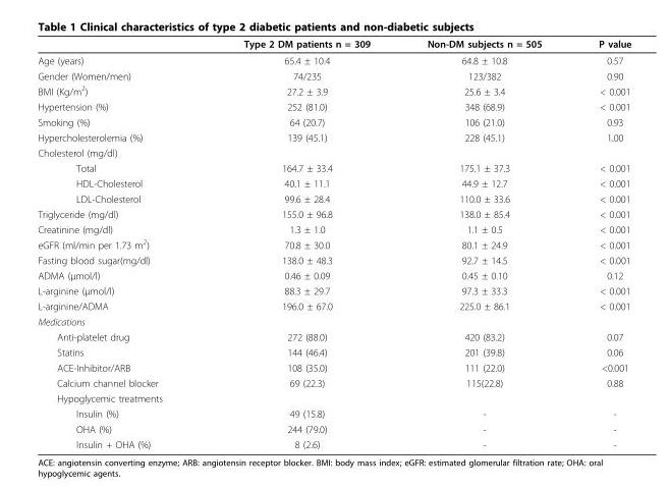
<table><thead><tr><td></td><td>Type 2 DM patients n = 309</td><td>Non-DM subjects n = 505</td><td>P value</td></tr></thead><tbody><tr><td>Age (years)</td><td>65.4 ± 10.4</td><td>64.8 ± 10.8</td><td>0.57</td></tr><tr><td>Gender (Women/men)</td><td>74/235</td><td>123/382</td><td>0.90</td></tr><tr><td>BMI (Kg/m<sup>2</sup>)</td><td>27.2 ± 3.9</td><td>25.6 ± 3.4</td><td>&lt; 0.001</td></tr><tr><td>Hypertension (%)</td><td>252 (81.0)</td><td>348 (68.9)</td><td>&lt; 0.001</td></tr><tr><td>Smoking (%)</td><td>64 (20.7)</td><td>106 (21.0)</td><td>0.93</td></tr><tr><td>Hypercholesterolemia (%)</td><td>139 (45.1)</td><td>228 (45.1)</td><td>1.00</td></tr><tr><td colspan="4">Cholesterol (mg/dl)</td></tr><tr><td>Total</td><td>164.7 ± 33.4</td><td>175.1 ± 37.3</td><td>&lt; 0.001</td></tr><tr><td>HDL-Cholesterol</td><td>40.1 ± 11.1</td><td>44.9 ± 12.7</td><td>&lt; 0.001</td></tr><tr><td>LDL-Cholesterol</td><td>99.6 ± 28.4</td><td>110.0 ± 33.6</td><td>&lt; 0.001</td></tr><tr><td>Triglyceride (mg/dl)</td><td>155.0 ± 96.8</td><td>138.0 ± 85.4</td><td>&lt; 0.001</td></tr><tr><td>Creatinine (mg/dl)</td><td>1.3 ± 1.0</td><td>1.1 ± 0.5</td><td>&lt; 0.001</td></tr><tr><td>eGFR (ml/min per 1.73 m<sup>2</sup>)</td><td>70.8 ± 30.0</td><td>80.1 ± 24.9</td><td>&lt; 0.001</td></tr><tr><td>Fasting blood sugar(mg/dl)</td><td>138.0 ± 48.3</td><td>92.7 ± 14.5</td><td>&lt; 0.001</td></tr><tr><td>ADMA (μmol/l)</td><td>0.46 ± 0.09</td><td>0.45 ± 0.10</td><td>0.12</td></tr><tr><td>L-arginine (μmol/l)</td><td>88.3 ± 29.7</td><td>97.3 ± 33.3</td><td>&lt; 0.001</td></tr><tr><td>L-arginine/ADMA</td><td>196.0 ± 67.0</td><td>225.0 ± 86.1</td><td>&lt; 0.001</td></tr><tr><td colspan="4">Medications</td></tr><tr><td>Anti-platelet drug</td><td>272 (88.0)</td><td>420 (83.2)</td><td>0.07</td></tr><tr><td>Statins</td><td>144 (46.4)</td><td>201 (39.8)</td><td>0.06</td></tr><tr><td>ACE-Inhibitor/ARB</td><td>108 (35.0)</td><td>111 (22.0)</td><td>&lt;0.001</td></tr><tr><td>Calcium channel blocker</td><td>69 (22.3)</td><td>115(22.8)</td><td>0.88</td></tr><tr><td colspan="4">Hypoglycemic treatments</td></tr><tr><td>Insulin (%)</td><td>49 (15.8)</td><td>-</td><td>-</td></tr><tr><td>OHA (%)</td><td>244 (79.0)</td><td>-</td><td>-</td></tr><tr><td>Insulin + OHA (%)</td><td>8 (2.6)</td><td>-</td><td>-</td></tr></tbody></table>